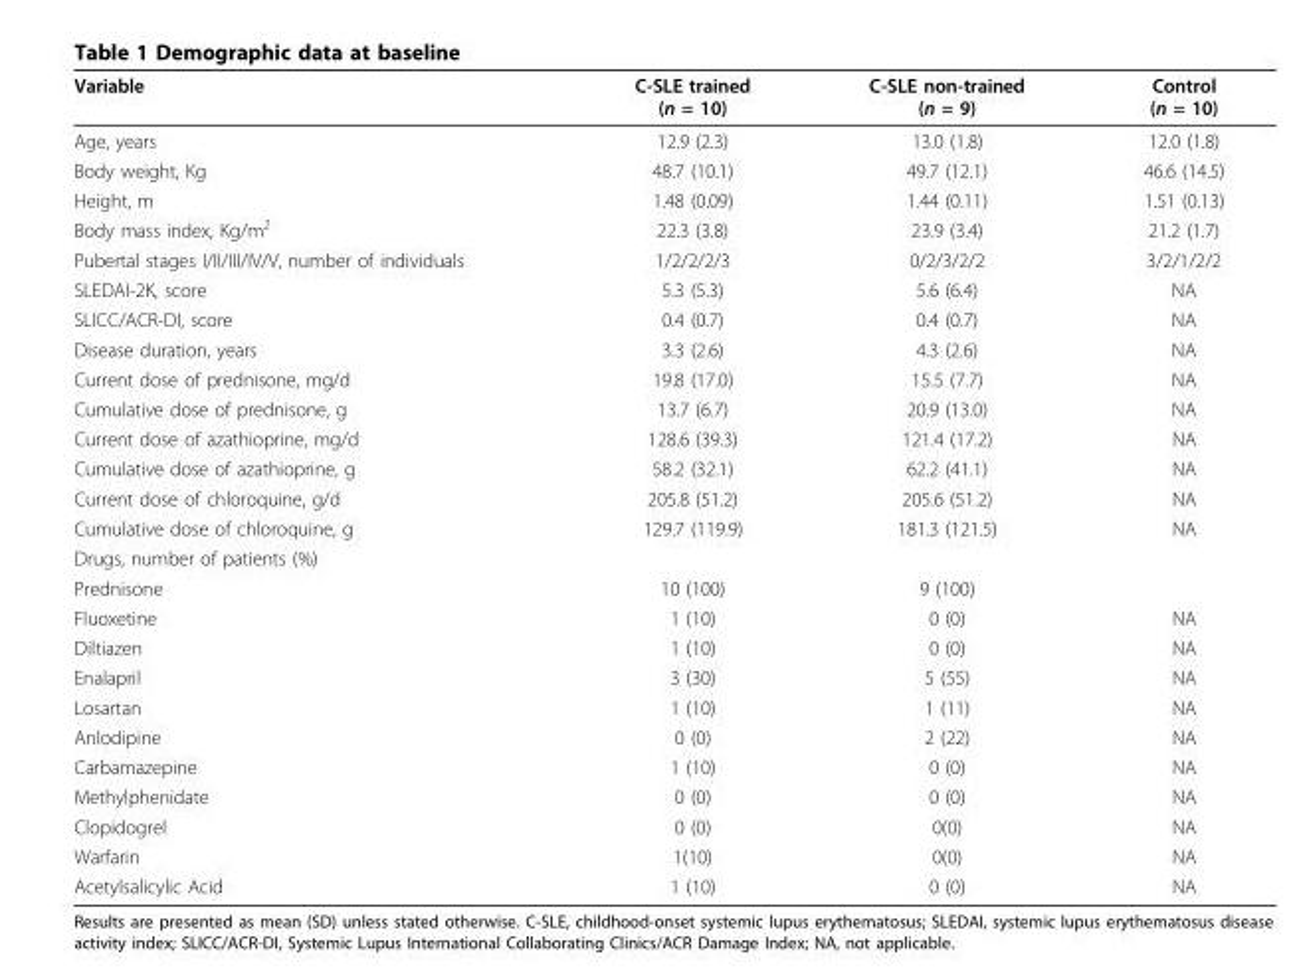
<table><thead><tr><td>Variable</td><td>C-SLE trained (n = 10)</td><td>C-SLE non-trained (n = 9)</td><td>Control (n = 10)</td></tr></thead><tbody><tr><td>Age, years</td><td>12.9 (2.3)</td><td>13.0 (1.8)</td><td>12.0 (1.8)</td></tr><tr><td>Body weight, Kg</td><td>48.7 (10.1)</td><td>49.7 (12.1)</td><td>46.6 (14.5)</td></tr><tr><td>Height, m</td><td>1.48 (0.09)</td><td>1.44 (0.11)</td><td>1.51 (0.13)</td></tr><tr><td>Body mass index, Kg/m<sup>2</sup></td><td>22.3 (3.8)</td><td>23.9 (3.4)</td><td>21.2 (1.7)</td></tr><tr><td>Pubertal stages I/II/III/IV/V, number of individuals</td><td>1/2/2/2/3</td><td>0/2/3/2/2</td><td>3/2/1/2/2</td></tr><tr><td>SLEDAI-2K, score</td><td>5.3 (5.3)</td><td>5.6 (6.4)</td><td>NA</td></tr><tr><td>SLICC/ACR-DI, score</td><td>0.4 (0.7)</td><td>0.4 (0.7)</td><td>NA</td></tr><tr><td>Disease duration, years</td><td>3.3 (2.6)</td><td>4.3 (2.6)</td><td>NA</td></tr><tr><td>Current dose of prednisone, mg/d</td><td>19.8 (17.0)</td><td>15.5 (7.7)</td><td>NA</td></tr><tr><td>Cumulative dose of prednisone, g</td><td>13.7 (6.7)</td><td>20.9 (13.0)</td><td>NA</td></tr><tr><td>Current dose of azathioprine, mg/d</td><td>128.6 (39.3)</td><td>121.4 (17.2)</td><td>NA</td></tr><tr><td>Cumulative dose of azathioprine, g</td><td>58.2 (32.1)</td><td>62.2 (41.1)</td><td>NA</td></tr><tr><td>Current dose of chloroquine, g/d</td><td>205.8 (51.2)</td><td>205.6 (51.2)</td><td>NA</td></tr><tr><td>Cumulative dose of chloroquine, g</td><td>129.7 (119.9)</td><td>181.3 (121.5)</td><td>NA</td></tr><tr><td colspan="4">Drugs, number of patients (%)</td></tr><tr><td>Prednisone</td><td>10 (100)</td><td>9 (100)</td><td></td></tr><tr><td>Fluoxetine</td><td>1 (10)</td><td>0 (0)</td><td>NA</td></tr><tr><td>Diltiazen</td><td>1 (10)</td><td>0 (0)</td><td>NA</td></tr><tr><td>Enalapril</td><td>3 (30)</td><td>5 (55)</td><td>NA</td></tr><tr><td>Losartan</td><td>1 (10)</td><td>1 (11)</td><td>NA</td></tr><tr><td>Anlodipine</td><td>0 (0)</td><td>2 (22)</td><td>NA</td></tr><tr><td>Carbamazepine</td><td>1 (10)</td><td>0 (0)</td><td>NA</td></tr><tr><td>Methylphenidate</td><td>0 (0)</td><td>0 (0)</td><td>NA</td></tr><tr><td>Clopidogrel</td><td>0 (0)</td><td>0(0)</td><td>NA</td></tr><tr><td>Warfarin</td><td>1(10)</td><td>0(0)</td><td>NA</td></tr><tr><td>Acetylsalicylic Acid</td><td>1 (10)</td><td>0 (0)</td><td>NA</td></tr></tbody></table>